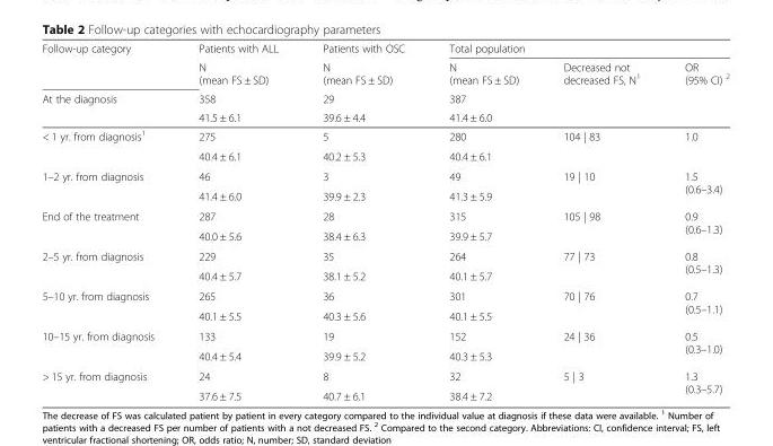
<table><thead><tr><td rowspan="4">Follow-up category At the diagnosis</td><td rowspan="4">Patients with ALL N (mean FS ± SD) 358 41.5 ± 6.1</td><td rowspan="4">Patients with OSC N (mean FS ± SD) 29 39.6 ± 4.4</td><td colspan="3">Total population</td></tr><tr><td rowspan="3">N (mean FS ± SD) 387 41.4 ± 6.0</td><td rowspan="3">Decreased not decreased FS, N<sup>1</sup></td><td rowspan="3">OR (95% CI) <sup>2</sup></td></tr><tr></tr><tr></tr></thead><tbody><tr><td rowspan="2">&lt; 1 yr. from diagnosis<sup>1</sup></td><td>275</td><td>5</td><td>280</td><td rowspan="2">104 | 83</td><td rowspan="2">1.0</td></tr><tr><td>40.4 ± 6.1</td><td>40.2 ± 5.3</td><td>40.4 ± 6.1</td></tr><tr><td rowspan="2">1–2 yr. from diagnosis</td><td>46</td><td>3</td><td>49</td><td rowspan="2">19 | 10</td><td rowspan="2">1.5 (0.6–3.4)</td></tr><tr><td>41.4 ± 6.0</td><td>39.9 ± 2.3</td><td>41.3 ± 5.9</td></tr><tr><td rowspan="2">End of the treatment</td><td>287</td><td>28</td><td>315</td><td rowspan="2">105 | 98</td><td rowspan="2">0.9 (0.6–1.3)</td></tr><tr><td>40.0 ± 5.6</td><td>38.4 ± 6.3</td><td>39.9 ± 5.7</td></tr><tr><td rowspan="2">2–5 yr. from diagnosis</td><td>229</td><td>35</td><td>264</td><td rowspan="2">77 | 73</td><td rowspan="2">0.8 (0.5–1.3)</td></tr><tr><td>40.4 ± 5.7</td><td>38.1 ± 5.2</td><td>40.1 ± 5.7</td></tr><tr><td rowspan="2">5–10 yr. from diagnosis</td><td>265</td><td>36</td><td>301</td><td rowspan="2">70 | 76</td><td rowspan="2">0.7 (0.5–1.1)</td></tr><tr><td>40.1 ± 5.5</td><td>40.3 ± 5.6</td><td>40.1 ± 5.5</td></tr><tr><td rowspan="2">10–15 yr. from diagnosis</td><td>133</td><td>19</td><td>152</td><td rowspan="2">24 | 36</td><td rowspan="2">0.5 (0.3–1.0)</td></tr><tr><td>40.4 ± 5.4</td><td>39.9 ± 5.2</td><td>40.3 ± 5.3</td></tr><tr><td rowspan="2">&gt; 15 yr. from diagnosis</td><td>24</td><td>8</td><td>32</td><td rowspan="2">5 | 3</td><td rowspan="2">1.3 (0.3–5.7)</td></tr><tr><td>37.6 ± 7.5</td><td>40.7 ± 6.1</td><td>38.4 ± 7.2</td></tr></tbody></table>